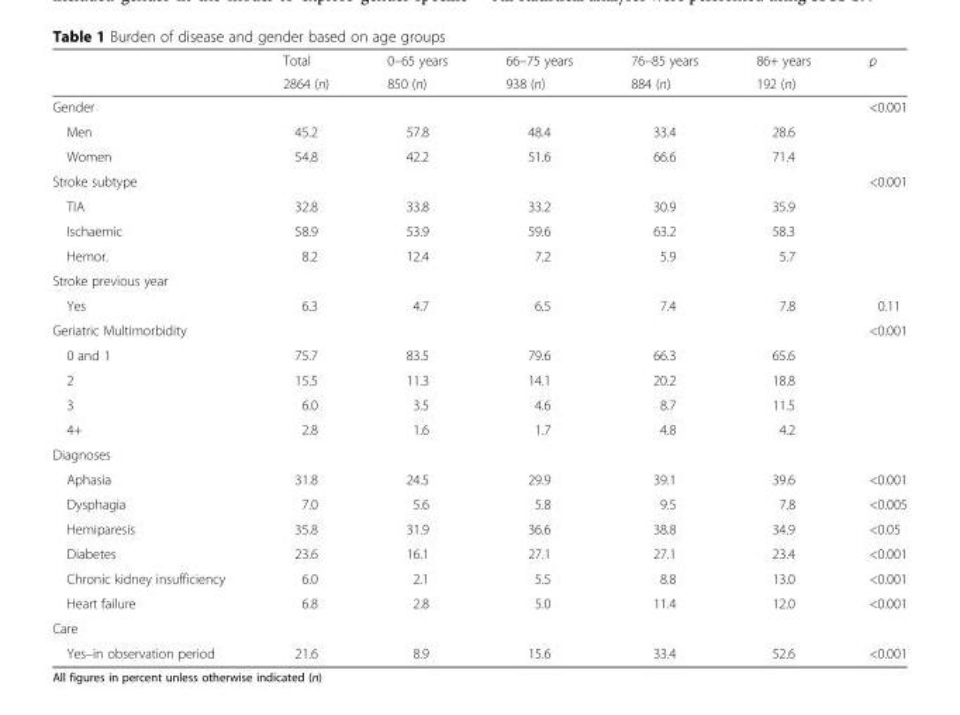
<table><thead><tr><td rowspan="2"></td><td rowspan="2">Total 2864 (n)</td><td rowspan="2">0–65 years 850 (n)</td><td rowspan="2">66–75 years 938 (n)</td><td rowspan="2">76–85 years 884 (n)</td><td rowspan="2">86+ years 192 (n)</td><td rowspan="2">p</td></tr><tr></tr></thead><tbody><tr><td colspan="6">Gender</td><td rowspan="3">&lt;0.001</td></tr><tr><td>Men</td><td>45.2</td><td>57.8</td><td>48.4</td><td>33.4</td><td>28.6</td></tr><tr><td>Women</td><td>54.8</td><td>42.2</td><td>51.6</td><td>66.6</td><td>71.4</td></tr><tr><td colspan="6">Stroke subtype</td><td rowspan="4">&lt;0.001</td></tr><tr><td>TIA</td><td>32.8</td><td>33.8</td><td>33.2</td><td>30.9</td><td>35.9</td></tr><tr><td>Ischaemic</td><td>58.9</td><td>53.9</td><td>59.6</td><td>63.2</td><td>58.3</td></tr><tr><td>Hemor.</td><td>8.2</td><td>12.4</td><td>7.2</td><td>5.9</td><td>5.7</td></tr><tr><td colspan="7">Stroke previous year</td></tr><tr><td>Yes</td><td>6.3</td><td>4.7</td><td>6.5</td><td>7.4</td><td>7.8</td><td>0.11</td></tr><tr><td colspan="6">Geriatric Multimorbidity</td><td rowspan="5">&lt;0.001</td></tr><tr><td>0 and 1</td><td>75.7</td><td>83.5</td><td>79.6</td><td>66.3</td><td>65.6</td></tr><tr><td>2</td><td>15.5</td><td>11.3</td><td>14.1</td><td>20.2</td><td>18.8</td></tr><tr><td>3</td><td>6.0</td><td>3.5</td><td>4.6</td><td>8.7</td><td>11.5</td></tr><tr><td>4+</td><td>2.8</td><td>1.6</td><td>1.7</td><td>4.8</td><td>4.2</td></tr><tr><td colspan="7">Diagnoses</td></tr><tr><td>Aphasia</td><td>31.8</td><td>24.5</td><td>29.9</td><td>39.1</td><td>39.6</td><td>&lt;0.001</td></tr><tr><td>Dysphagia</td><td>7.0</td><td>5.6</td><td>5.8</td><td>9.5</td><td>7.8</td><td>&lt;0.005</td></tr><tr><td>Hemiparesis</td><td>35.8</td><td>31.9</td><td>36.6</td><td>38.8</td><td>34.9</td><td>&lt;0.05</td></tr><tr><td>Diabetes</td><td>23.6</td><td>16.1</td><td>27.1</td><td>27.1</td><td>23.4</td><td>&lt;0.001</td></tr><tr><td>Chronic kidney insufficiency</td><td>6.0</td><td>2.1</td><td>5.5</td><td>8.8</td><td>13.0</td><td>&lt;0.001</td></tr><tr><td>Heart failure</td><td>6.8</td><td>2.8</td><td>5.0</td><td>11.4</td><td>12.0</td><td>&lt;0.001</td></tr><tr><td colspan="7">Care</td></tr><tr><td>Yes–in observation period</td><td>21.6</td><td>8.9</td><td>15.6</td><td>33.4</td><td>52.6</td><td>&lt;0.001</td></tr></tbody></table>